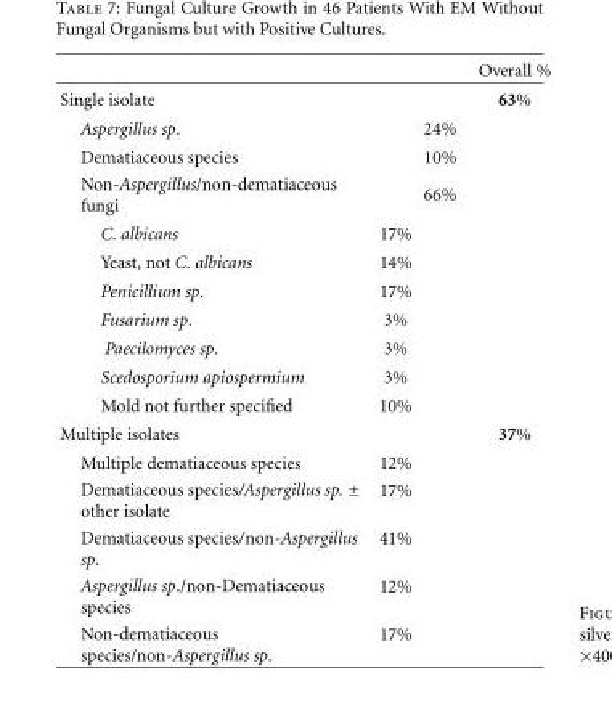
<table><thead><tr><td></td><td></td><td></td><td>Overall %</td></tr></thead><tbody><tr><td>Single isolate</td><td></td><td></td><td>63%</td></tr><tr><td>Aspergillus sp.</td><td></td><td>24%</td><td></td></tr><tr><td>Dematiaceous species</td><td></td><td>10%</td><td></td></tr><tr><td>Non-Aspergillus/non-dematiaceous fungi</td><td></td><td>66%</td><td></td></tr><tr><td>C. albicans</td><td>17%</td><td></td><td></td></tr><tr><td>Yeast, not C. albicans</td><td>14%</td><td></td><td></td></tr><tr><td>Penicillium sp.</td><td>17%</td><td></td><td></td></tr><tr><td>Fusarium sp.</td><td>3%</td><td></td><td></td></tr><tr><td>Paecilomyces sp.</td><td>3%</td><td></td><td></td></tr><tr><td>Scedosporium apiospermium</td><td>3%</td><td></td><td></td></tr><tr><td>Mold not further specified</td><td>10%</td><td></td><td></td></tr><tr><td>Multiple isolates</td><td></td><td></td><td>37%</td></tr><tr><td>Multiple dematiaceous species</td><td>12%</td><td></td><td></td></tr><tr><td>Dematiaceous species/Aspergillus sp. ± other isolate</td><td>17%</td><td></td><td></td></tr><tr><td>Dematiaceous species/non-Aspergillus sp.</td><td>41%</td><td></td><td></td></tr><tr><td>Aspergillus sp./non-Dematiaceous species</td><td>12%</td><td></td><td></td></tr><tr><td>Non-dematiaceous species/non-Aspergillus sp.</td><td>17%</td><td></td><td></td></tr></tbody></table>